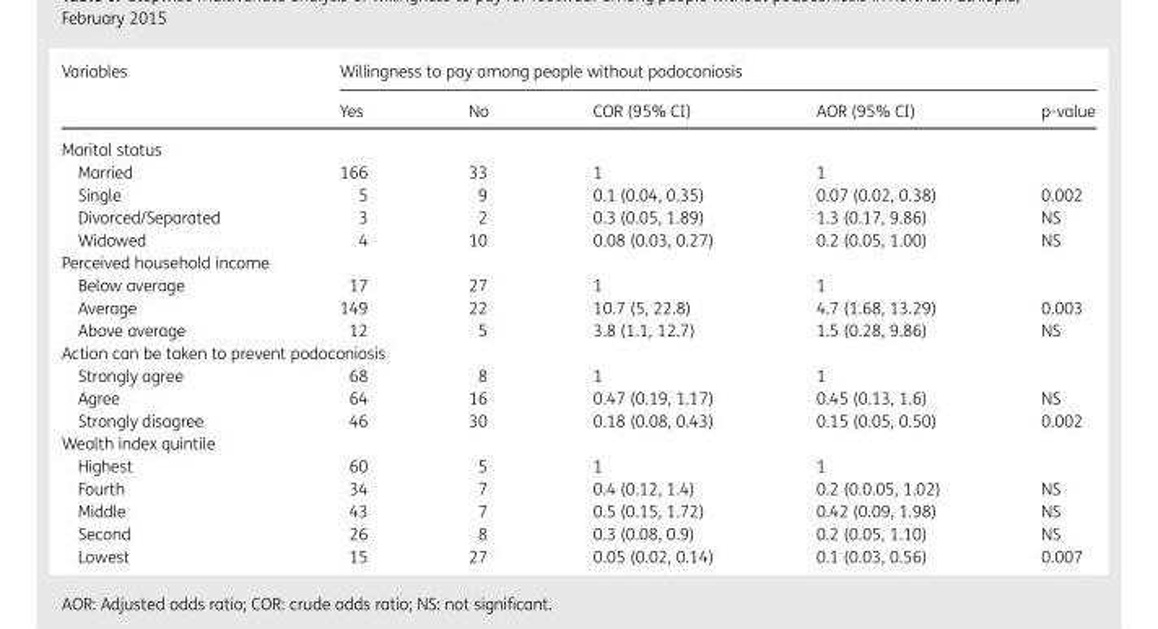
<table><thead><tr><td rowspan="2">Variables</td><td colspan="5">Willingness to pay among people without podoconiosis</td></tr><tr><td>Yes</td><td>No</td><td>COR (95% CI)</td><td>AOR (95% CI)</td><td>p-value</td></tr></thead><tbody><tr><td colspan="6">Marital status</td></tr><tr><td>Married</td><td>166</td><td>33</td><td>1</td><td>1</td><td></td></tr><tr><td>Single</td><td>5</td><td>9</td><td>0.1 (0.04, 0.35)</td><td>0.07 (0.02, 0.38)</td><td>0.002</td></tr><tr><td>Divorced/Separated</td><td>3</td><td>2</td><td>0.3 (0.05, 1.89)</td><td>1.3 (0.17, 9.86)</td><td>NS</td></tr><tr><td>Widowed</td><td>4</td><td>10</td><td>0.08 (0.03, 0.27)</td><td>0.2 (0.05, 1.00)</td><td>NS</td></tr><tr><td colspan="6">Perceived household income</td></tr><tr><td>Below average</td><td>17</td><td>27</td><td>1</td><td>1</td><td></td></tr><tr><td>Average</td><td>149</td><td>22</td><td>10.7 (5, 22.8)</td><td>4.7 (1.68, 13.29)</td><td>0.003</td></tr><tr><td>Above average</td><td>12</td><td>5</td><td>3.8 (1.1, 12.7)</td><td>1.5 (0.28, 9.86)</td><td>NS</td></tr><tr><td colspan="6">Action can be taken to prevent podoconiosis</td></tr><tr><td>Strongly agree</td><td>68</td><td>8</td><td>1</td><td>1</td><td></td></tr><tr><td>Agree</td><td>64</td><td>16</td><td>0.47 (0.19, 1.17)</td><td>0.45 (0.13, 1.6)</td><td>NS</td></tr><tr><td>Strongly disagree</td><td>46</td><td>30</td><td>0.18 (0.08, 0.43)</td><td>0.15 (0.05, 0.50)</td><td>0.002</td></tr><tr><td colspan="6">Wealth index quintile</td></tr><tr><td>Highest</td><td>60</td><td>5</td><td>1</td><td>1</td><td></td></tr><tr><td>Fourth</td><td>34</td><td>7</td><td>0.4 (0.12, 1.4)</td><td>0.2 (0.0.05, 1.02)</td><td>NS</td></tr><tr><td>Middle</td><td>43</td><td>7</td><td>0.5 (0.15, 1.72)</td><td>0.42 (0.09, 1.98)</td><td>NS</td></tr><tr><td>Second</td><td>26</td><td>8</td><td>0.3 (0.08, 0.9)</td><td>0.2 (0.05, 1.10)</td><td>NS</td></tr><tr><td>Lowest</td><td>15</td><td>27</td><td>0.05 (0.02, 0.14)</td><td>0.1 (0.03, 0.56)</td><td>0.007</td></tr></tbody></table>